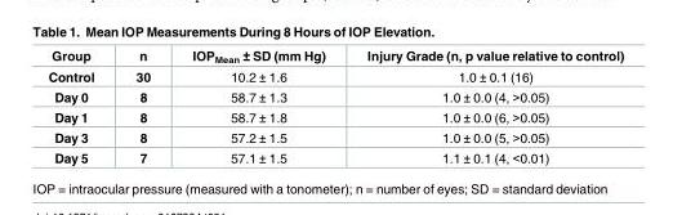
<table><thead><tr><td>Group</td><td>n</td><td>IOP<sub>Mean</sub> ± SD (mm Hg)</td><td>Injury Grade (n, p value relative to control)</td></tr></thead><tbody><tr><td>Control</td><td>30</td><td>10.2 ± 1.6</td><td>1.0 ± 0.1 (16)</td></tr><tr><td>Day 0</td><td>8</td><td>58.7 ± 1.3</td><td>1.0 ± 0.0 (4, &gt;0.05)</td></tr><tr><td>Day 1</td><td>8</td><td>58.7 ± 1.8</td><td>1.0 ± 0.0 (6, &gt;0.05)</td></tr><tr><td>Day 3</td><td>8</td><td>57.2 ± 1.5</td><td>1.0 ± 0.0 (5, &gt;0.05)</td></tr><tr><td>Day 5</td><td>7</td><td>57.1 ± 1.5</td><td>1.1 ± 0.1 (4, &lt;0.01)</td></tr></tbody></table>